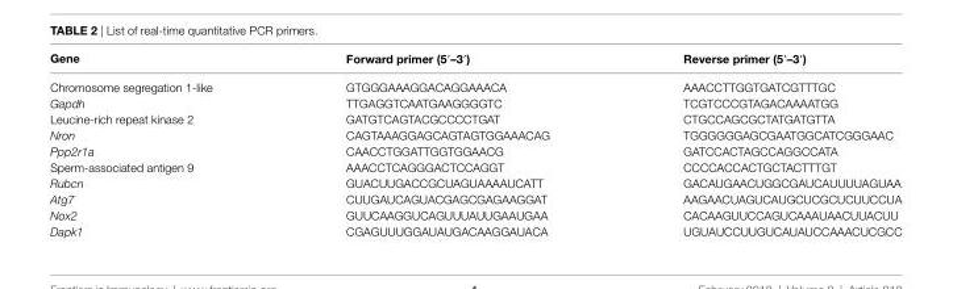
<table><thead><tr><td>gene</td><td>Forward primer (5′–3′)</td><td>reverse primer (5′–3′)</td></tr></thead><tbody><tr><td>Chromosome segregation 1-like</td><td>GTGGGAAAGGACAGGAAACA</td><td>AAACCTTGGTGATCGTTTGC</td></tr><tr><td>Gapdh</td><td>TTGAGGTCAATGAAGGGGTC</td><td>TCGTCCCGTAGACAAAATGG</td></tr><tr><td>Leucine-rich repeat kinase 2</td><td>GATGTCAGTACGCCCCTGAT</td><td>CTGCCAGCGCTATGATGTTA</td></tr><tr><td>Nron</td><td>CAGTAAAGGAGCAGTAGTGGAAACAG</td><td>TGGGGGGAGCGAATGGCATCGGGAAC</td></tr><tr><td>Ppp2r1a</td><td>CAACCTGGATTGGTGGAACG</td><td>GATCCACTAGCCAGGCCATA</td></tr><tr><td>Sperm-associated antigen 9</td><td>AAACCTCAGGGACTCCAGGT</td><td>CCCCACCACTGCTACTTTGT</td></tr><tr><td>Rubcn</td><td>GUACUUGACCGCUAGUAAAAUCATT</td><td>GACAUGAACUGGCGAUCAUUUUAGUAA</td></tr><tr><td>Atg7</td><td>CUUGAUCAGUACGAGCGAGAAGGAT</td><td>AAGAACUAGUCAUGCUCGCUCUUCCUA</td></tr><tr><td>Nox2</td><td>GUUCAAGGUCAGUUUAUUGAAUGAA</td><td>CACAAGUUCCAGUCAAAUAACUUACUU</td></tr><tr><td>Dapk1</td><td>CGAGUUUGGAUAUGACAAGGAUACA</td><td>UGUAUCCUUGUCAUAUCCAAACUCGCC</td></tr></tbody></table>